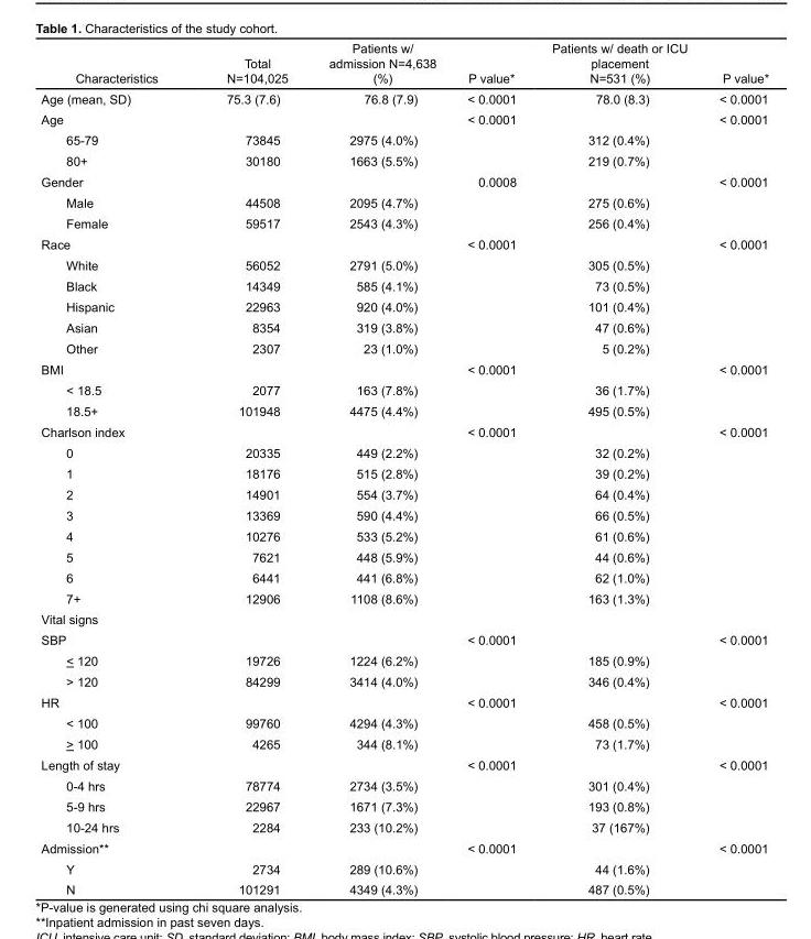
<table><thead><tr><td>Characteristics</td><td>Total N=104,025</td><td>Patients w/ admission N=4,638 (%)</td><td>P value*</td><td>Patients w/ death or ICU placement N=531 (%)</td><td>P value*</td></tr></thead><tbody><tr><td>Age (mean, SD)</td><td>75.3 (7.6)</td><td>76.8 (7.9)</td><td>&lt; 0.0001</td><td>78.0 (8.3)</td><td>&lt; 0.0001</td></tr><tr><td>Age</td><td></td><td></td><td>&lt; 0.0001</td><td></td><td>&lt; 0.0001</td></tr><tr><td>65-79</td><td>73845</td><td>2975 (4.0%)</td><td></td><td>312 (0.4%)</td><td></td></tr><tr><td>80+</td><td>30180</td><td>1663 (5.5%)</td><td></td><td>219 (0.7%)</td><td></td></tr><tr><td>Gender</td><td></td><td></td><td>0.0008</td><td></td><td>&lt; 0.0001</td></tr><tr><td>Male</td><td>44508</td><td>2095 (4.7%)</td><td></td><td>275 (0.6%)</td><td></td></tr><tr><td>Female</td><td>59517</td><td>2543 (4.3%)</td><td></td><td>256 (0.4%)</td><td></td></tr><tr><td>Race</td><td></td><td></td><td>&lt; 0.0001</td><td></td><td>&lt; 0.0001</td></tr><tr><td>White</td><td>56052</td><td>2791 (5.0%)</td><td></td><td>305 (0.5%)</td><td></td></tr><tr><td>Black</td><td>14349</td><td>585 (4.1%)</td><td></td><td>73 (0.5%)</td><td></td></tr><tr><td>Hispanic</td><td>22963</td><td>920 (4.0%)</td><td></td><td>101 (0.4%)</td><td></td></tr><tr><td>Asian</td><td>8354</td><td>319 (3.8%)</td><td></td><td>47 (0.6%)</td><td></td></tr><tr><td>Other</td><td>2307</td><td>23 (1.0%)</td><td></td><td>5 (0.2%)</td><td></td></tr><tr><td>BMI</td><td></td><td></td><td>&lt; 0.0001</td><td></td><td>&lt; 0.0001</td></tr><tr><td>&lt; 18.5</td><td>2077</td><td>163 (7.8%)</td><td></td><td>36 (1.7%)</td><td></td></tr><tr><td>18.5+</td><td>101948</td><td>4475 (4.4%)</td><td></td><td>495 (0.5%)</td><td></td></tr><tr><td>Charlson index</td><td></td><td></td><td>&lt; 0.0001</td><td></td><td>&lt; 0.0001</td></tr><tr><td>0</td><td>20335</td><td>449 (2.2%)</td><td></td><td>32 (0.2%)</td><td></td></tr><tr><td>1</td><td>18176</td><td>515 (2.8%)</td><td></td><td>39 (0.2%)</td><td></td></tr><tr><td>2</td><td>14901</td><td>554 (3.7%)</td><td></td><td>64 (0.4%)</td><td></td></tr><tr><td>3</td><td>13369</td><td>590 (4.4%)</td><td></td><td>66 (0.5%)</td><td></td></tr><tr><td>4</td><td>10276</td><td>533 (5.2%)</td><td></td><td>61 (0.6%)</td><td></td></tr><tr><td>5</td><td>7621</td><td>448 (5.9%)</td><td></td><td>44 (0.6%)</td><td></td></tr><tr><td>6</td><td>6441</td><td>441 (6.8%)</td><td></td><td>62 (1.0%)</td><td></td></tr><tr><td>7+</td><td>12906</td><td>1108 (8.6%)</td><td></td><td>163 (1.3%)</td><td></td></tr><tr><td colspan="6">Vital signs</td></tr><tr><td>SBP</td><td></td><td></td><td>&lt; 0.0001</td><td></td><td>&lt; 0.0001</td></tr><tr><td>&lt; 120</td><td>19726</td><td>1224 (6.2%)</td><td></td><td>185 (0.9%)</td><td></td></tr><tr><td>&gt; 120</td><td>84299</td><td>3414 (4.0%)</td><td></td><td>346 (0.4%)</td><td></td></tr><tr><td>HR</td><td></td><td></td><td>&lt; 0.0001</td><td></td><td>&lt; 0.0001</td></tr><tr><td>&lt; 100</td><td>99760</td><td>4294 (4.3%)</td><td></td><td>458 (0.5%)</td><td></td></tr><tr><td>&gt; 100</td><td>4265</td><td>344 (8.1%)</td><td></td><td>73 (1.7%)</td><td></td></tr><tr><td>Length of stay</td><td></td><td></td><td>&lt; 0.0001</td><td></td><td>&lt; 0.0001</td></tr><tr><td>0-4 hrs</td><td>78774</td><td>2734 (3.5%)</td><td></td><td>301 (0.4%)</td><td></td></tr><tr><td>5-9 hrs</td><td>22967</td><td>1671 (7.3%)</td><td></td><td>193 (0.8%)</td><td></td></tr><tr><td>10-24 hrs</td><td>2284</td><td>233 (10.2%)</td><td></td><td>37 (167%)</td><td></td></tr><tr><td>Admission**</td><td></td><td></td><td>&lt; 0.0001</td><td></td><td>&lt; 0.0001</td></tr><tr><td>Y</td><td>2734</td><td>289 (10.6%)</td><td></td><td>44 (1.6%)</td><td></td></tr><tr><td>N</td><td>101291</td><td>4349 (4.3%)</td><td></td><td>487 (0.5%)</td><td></td></tr></tbody></table>